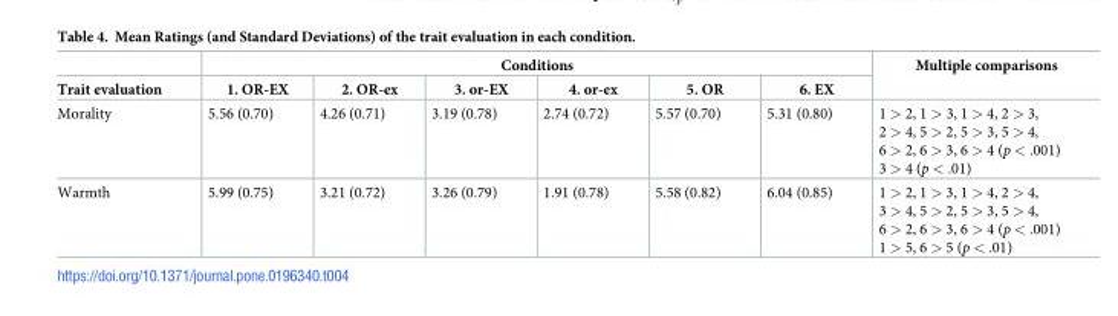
<table><thead><tr><td rowspan="2">Trait evaluation</td><td colspan="6">Conditions</td><td rowspan="2">Multiple comparisons</td></tr><tr><td>1. OR-EX</td><td>2. OR-ex</td><td>3. or-EX</td><td>4. or-ex</td><td>5. OR</td><td>6. EX</td></tr></thead><tbody><tr><td>Morality</td><td>5.56 (0.70)</td><td>4.26 (0.71)</td><td>3.19 (0.78)</td><td>2.74 (0.72)</td><td>5.57 (0.70)</td><td>5.31 (0.80)</td><td>1 &gt; 2, 1 &gt; 3, 1 &gt; 4, 2 &gt; 3, 2 &gt; 4, 5 &gt; 2, 5 &gt; 3, 5 &gt; 4, 6 &gt; 2, 6 &gt; 3, 6 &gt; 4 (p &lt; .001) 3 &gt; 4 (p &lt; .01)</td></tr><tr><td>Warmth</td><td>5.99 (0.75)</td><td>3.21 (0.72)</td><td>3.26 (0.79)</td><td>1.91 (0.78)</td><td>5.58 (0.82)</td><td>6.04 (0.85)</td><td>1 &gt; 2, 1 &gt; 3, 1 &gt; 4, 2 &gt; 4, 3 &gt; 4, 5 &gt; 2, 5 &gt; 3, 5 &gt; 4, 6 &gt; 2, 6 &gt; 3, 6 &gt; 4 (p &lt; .001) 1 &gt; 5, 6 &gt; 5 (p &lt; .01)</td></tr></tbody></table>